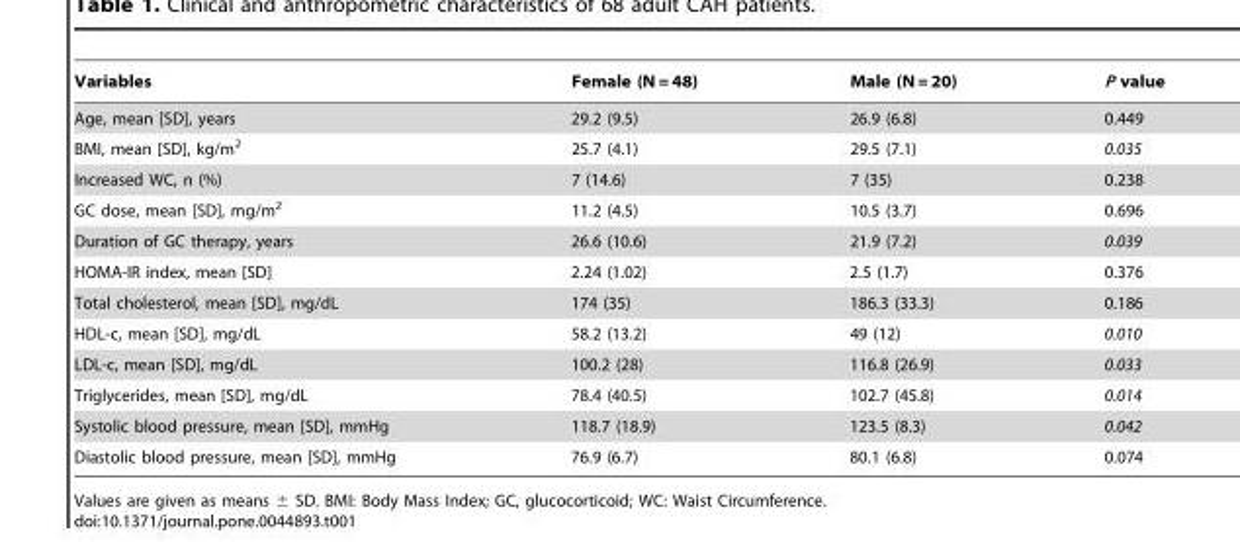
<table><thead><tr><td>Variables</td><td>Female (N = 48)</td><td>Male (N = 20)</td><td>P value</td></tr></thead><tbody><tr><td>Age, mean [SD], years</td><td>29.2 (9.5)</td><td>26.9 (6.8)</td><td>0.449</td></tr><tr><td>BMI, mean [SD], kg/m<sup>2</sup></td><td>25.7 (4.1)</td><td>29.5 (7.1)</td><td>0.035</td></tr><tr><td>Increased WC, n (%)</td><td>7 (14.6)</td><td>7 (35)</td><td>0.238</td></tr><tr><td>GC dose, mean [SD], mg/m<sup>2</sup></td><td>11.2 (4.5)</td><td>10.5 (3.7)</td><td>0.696</td></tr><tr><td>Duration of GC therapy, years</td><td>26.6 (10.6)</td><td>21.9 (7.2)</td><td>0.039</td></tr><tr><td>HOMA-IR index, mean [SD]</td><td>2.24 (1.02)</td><td>2.5 (1.7)</td><td>0.376</td></tr><tr><td>Total cholesterol, mean [SD], mg/dL</td><td>174 (35)</td><td>186.3 (33.3)</td><td>0.186</td></tr><tr><td>HDL-c, mean [SD], mg/dL</td><td>58.2 (13.2)</td><td>49 (12)</td><td>0.010</td></tr><tr><td>LDL-c, mean [SD], mg/dL</td><td>100.2 (28)</td><td>116.8 (26.9)</td><td>0.033</td></tr><tr><td>Triglycerides, mean [SD], mg/dL</td><td>78.4 (40.5)</td><td>102.7 (45.8)</td><td>0.014</td></tr><tr><td>Systolic blood pressure, mean [SD], mmHg</td><td>118.7 (18.9)</td><td>123.5 (8.3)</td><td>0.042</td></tr><tr><td>Diastolic blood pressure, mean [SD], mmHg</td><td>76.9 (6.7)</td><td>80.1 (6.8)</td><td>0.074</td></tr></tbody></table>